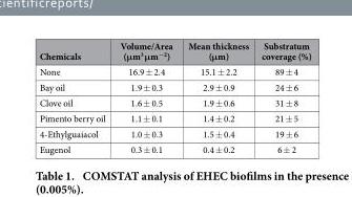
<table><thead><tr><td>Chemicals</td><td>Volume/Area (μm<sup>3</sup> μm<sup>−2</sup>)</td><td>Mean thickness (μm)</td><td>Substratum coverage (%)</td></tr></thead><tbody><tr><td>None</td><td>16.9 ± 2.4</td><td>15.1 ± 2.2</td><td>89 ± 4</td></tr><tr><td>Bay oil</td><td>1.9 ± 0.3</td><td>2.9 ± 0.9</td><td>24 ± 6</td></tr><tr><td>Clove oil</td><td>1.6 ± 0.5</td><td>1.9 ± 0.6</td><td>31 ± 8</td></tr><tr><td>Pimento berry oil</td><td>1.1 ± 0.1</td><td>1.4 ± 0.2</td><td>21 ± 5</td></tr><tr><td>4-Ethylguaiacol</td><td>1.0 ± 0.3</td><td>1.5 ± 0.4</td><td>19 ± 6</td></tr><tr><td>Eugenol</td><td>0.3 ± 0.1</td><td>0.4 ± 0.2</td><td>6 ± 2</td></tr></tbody></table>